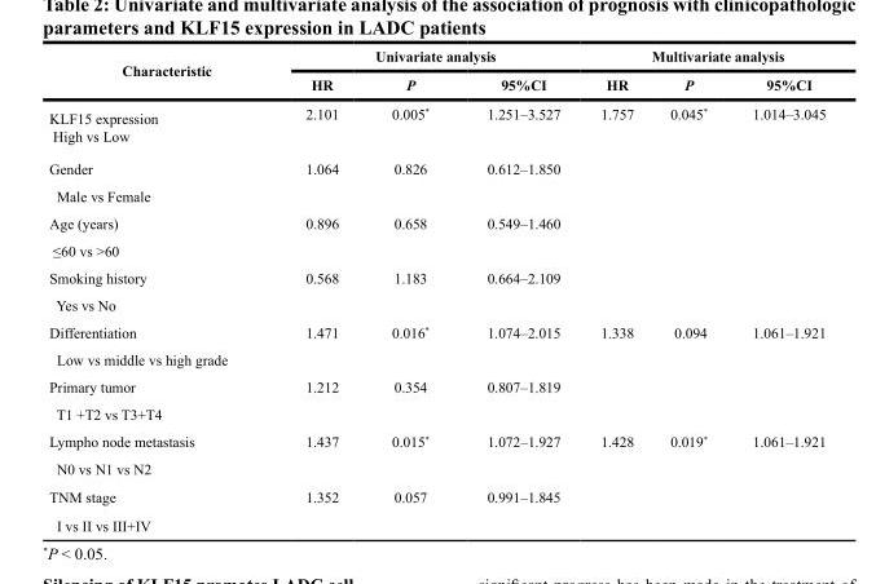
<table><thead><tr><td rowspan="2">Characteristic</td><td colspan="3">Univariate analysis</td><td colspan="3">Multivariate analysis</td></tr><tr><td>HR</td><td>P</td><td>95%CI</td><td>HR</td><td>P</td><td>95%CI</td></tr></thead><tbody><tr><td>KLF15 expression High vs Low</td><td>2.101</td><td>0.005*</td><td>1.251–3.527</td><td>1.757</td><td>0.045*</td><td>1.014–3.045</td></tr><tr><td>Gender</td><td>1.064</td><td>0.826</td><td>0.612–1.850</td><td></td><td></td><td></td></tr><tr><td colspan="7">Male vs Female</td></tr><tr><td>Age (years)</td><td>0.896</td><td>0.658</td><td>0.549–1.460</td><td></td><td></td><td></td></tr><tr><td colspan="7">≤60 vs &gt;60</td></tr><tr><td>Smoking history</td><td>0.568</td><td>1.183</td><td>0.664–2.109</td><td></td><td></td><td></td></tr><tr><td colspan="7">Yes vs No</td></tr><tr><td>Differentiation</td><td>1.471</td><td>0.016*</td><td>1.074–2.015</td><td>1.338</td><td>0.094</td><td>1.061–1.921</td></tr><tr><td colspan="7">Low vs middle vs high grade</td></tr><tr><td>Primary tumor</td><td>1.212</td><td>0.354</td><td>0.807–1.819</td><td></td><td></td><td></td></tr><tr><td colspan="7">T1 +T2 vs T3+T4</td></tr><tr><td>Lympho node metastasis</td><td>1.437</td><td>0.015*</td><td>1.072–1.927</td><td>1.428</td><td>0.019*</td><td>1.061–1.921</td></tr><tr><td colspan="7">N0 vs N1 vs N2</td></tr><tr><td>TNM stage</td><td>1.352</td><td>0.057</td><td>0.991–1.845</td><td></td><td></td><td></td></tr><tr><td>I vs II vs III+IV</td><td></td><td></td><td></td><td></td><td></td><td></td></tr></tbody></table>